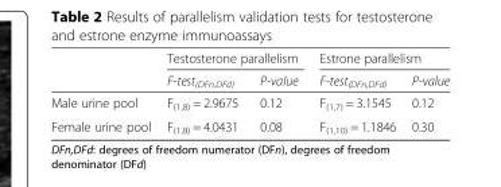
<table><thead><tr><td rowspan="2"></td><td colspan="2">Testosterone parallelism</td><td colspan="2">Estrone parallelism</td></tr><tr><td>F-test<sub>(DFn,DFd)</sub></td><td>P-value</td><td>F-test<sub>(DFn,DFd)</sub></td><td>P-value</td></tr></thead><tbody><tr><td>Male urine pool</td><td>F<sub>(1,8)</sub> = 2.9675</td><td>0.12</td><td>F<sub>(1,7)</sub> = 3.1545</td><td>0.12</td></tr><tr><td>Female urine pool</td><td>F<sub>(1,8)</sub> = 4.0431</td><td>0.08</td><td>F<sub>(1,10)</sub> = 1.1846</td><td>0.30</td></tr></tbody></table>